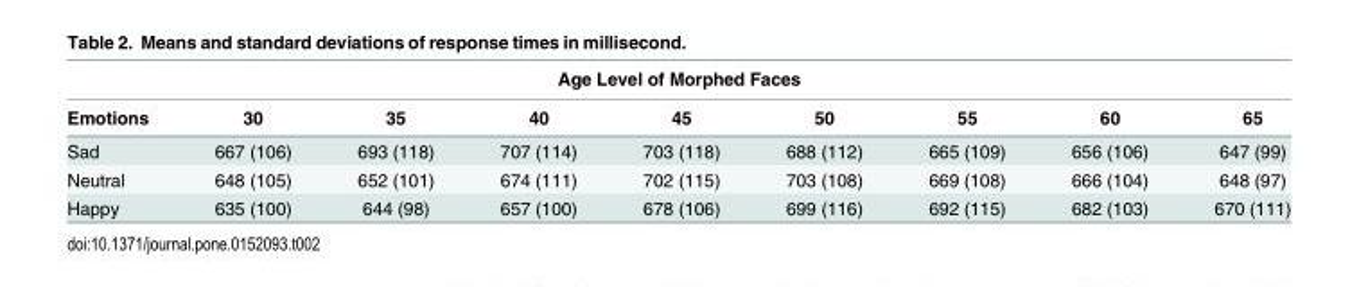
<table><thead><tr><td colspan="9">Age Level of Morphed Faces</td></tr><tr><td>Emotions</td><td>30</td><td>35</td><td>40</td><td>45</td><td>50</td><td>55</td><td>60</td><td>65</td></tr></thead><tbody><tr><td>Sad</td><td>667 (106)</td><td>693 (118)</td><td>707 (114)</td><td>703 (118)</td><td>688 (112)</td><td>665 (109)</td><td>656 (106)</td><td>647 (99)</td></tr><tr><td>Neutral</td><td>648 (105)</td><td>652 (101)</td><td>674 (111)</td><td>702 (115)</td><td>703 (108)</td><td>669 (108)</td><td>666 (104)</td><td>648 (97)</td></tr><tr><td>Happy</td><td>635 (100)</td><td>644 (98)</td><td>657 (100)</td><td>678 (106)</td><td>699 (116)</td><td>692 (115)</td><td>682 (103)</td><td>670 (111)</td></tr></tbody></table>